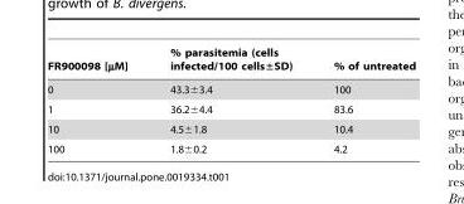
<table><thead><tr><td>FR900098 [µM]</td><td>% parasitemia (cells infected/100 cells±SD)</td><td>% of untreated</td></tr></thead><tbody><tr><td>0</td><td>43.3±3.4</td><td>100</td></tr><tr><td>1</td><td>36.2±4.4</td><td>83.6</td></tr><tr><td>10</td><td>4.5±1.8</td><td>10.4</td></tr><tr><td>100</td><td>1.8±0.2</td><td>4.2</td></tr></tbody></table>